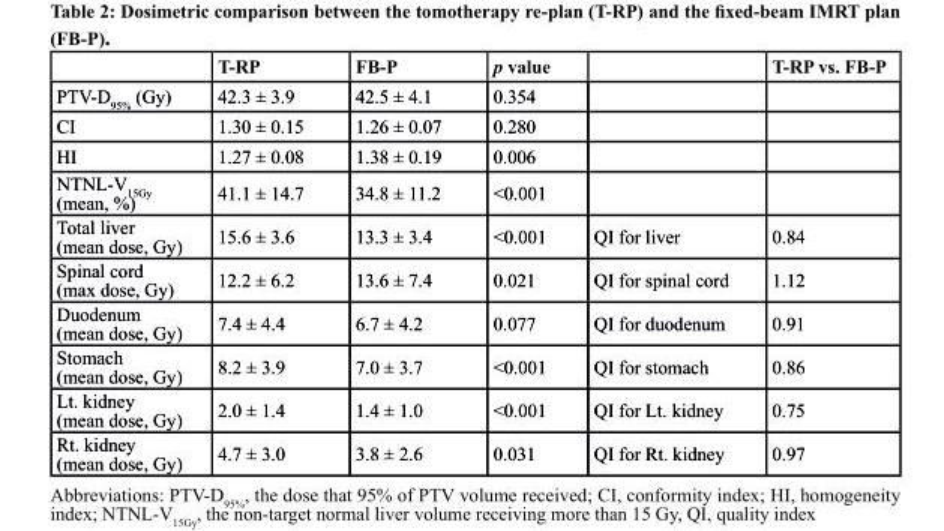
<table><thead><tr><td></td><td>t-rP</td><td>Fb-P</td><td>p value</td><td></td><td>t-rP vs. Fb-P</td></tr></thead><tbody><tr><td>PTV-D<sub>95%</sub> (Gy)</td><td>42.3 ± 3.9</td><td>42.5 ± 4.1</td><td>0.354</td><td></td><td></td></tr><tr><td>CI</td><td>1.30 ± 0.15</td><td>1.26 ± 0.07</td><td>0.280</td><td></td><td></td></tr><tr><td>HI</td><td>1.27 ± 0.08</td><td>1.38 ± 0.19</td><td>0.006</td><td></td><td></td></tr><tr><td>NTNL-V<sub>15Gy</sub> (mean, %)</td><td>41.1 ± 14.7</td><td>34.8 ± 11.2</td><td>&lt;0.001</td><td></td><td></td></tr><tr><td>Total liver (mean dose, Gy)</td><td>15.6 ± 3.6</td><td>13.3 ± 3.4</td><td>&lt;0.001</td><td>QI for liver</td><td>0.84</td></tr><tr><td>Spinal cord (max dose, Gy)</td><td>12.2 ± 6.2</td><td>13.6 ± 7.4</td><td>0.021</td><td>QI for spinal cord</td><td>1.12</td></tr><tr><td>Duodenum (mean dose, Gy)</td><td>7.4 ± 4.4</td><td>6.7 ± 4.2</td><td>0.077</td><td>QI for duodenum</td><td>0.91</td></tr><tr><td>Stomach (mean dose, Gy)</td><td>8.2 ± 3.9</td><td>7.0 ± 3.7</td><td>&lt;0.001</td><td>QI for stomach</td><td>0.86</td></tr><tr><td>Lt. kidney (mean dose, Gy)</td><td>2.0 ± 1.4</td><td>1.4 ± 1.0</td><td>&lt;0.001</td><td>QI for Lt. kidney</td><td>0.75</td></tr><tr><td>Rt. kidney (mean dose, Gy)</td><td>4.7 ± 3.0</td><td>3.8 ± 2.6</td><td>0.031</td><td>QI for Rt. kidney</td><td>0.97</td></tr></tbody></table>